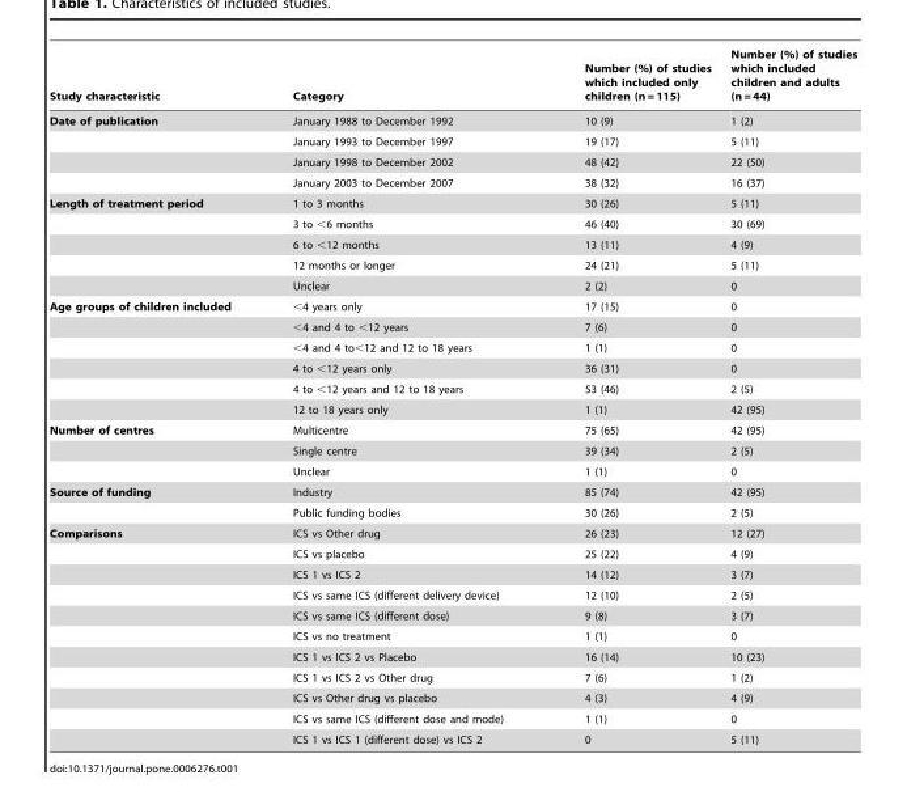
<table><thead><tr><td>Study characteristic</td><td>Category</td><td>Number (%) of studies which included only children (n = 115)</td><td>Number (%) of studies which included children and adults (n = 44)</td></tr></thead><tbody><tr><td rowspan="4">Date of publication</td><td>January 1988 to December 1992</td><td>10 (9)</td><td>1 (2)</td></tr><tr><td>January 1993 to December 1997</td><td>19 (17)</td><td>5 (11)</td></tr><tr><td>January 1998 to December 2002</td><td>48 (42)</td><td>22 (50)</td></tr><tr><td>January 2003 to December 2007</td><td>38 (32)</td><td>16 (37)</td></tr><tr><td rowspan="5">Length of treatment period</td><td>1 to 3 months</td><td>30 (26)</td><td>5 (11)</td></tr><tr><td>3 to &lt;6 months</td><td>46 (40)</td><td>30 (69)</td></tr><tr><td>6 to &lt;12 months</td><td>13 (11)</td><td>4 (9)</td></tr><tr><td>12 months or longer</td><td>24 (21)</td><td>5 (11)</td></tr><tr><td>Unclear</td><td>2 (2)</td><td>0</td></tr><tr><td rowspan="6">Age groups of children included</td><td>&lt;4 years only</td><td>17 (15)</td><td>0</td></tr><tr><td>&lt;4 and 4 to &lt;12 years</td><td>7 (6)</td><td>0</td></tr><tr><td>&lt;4 and 4 to&lt;12 and 12 to 18 years</td><td>1 (1)</td><td>0</td></tr><tr><td>4 to &lt;12 years only</td><td>36 (31)</td><td>0</td></tr><tr><td>4 to &lt;12 years and 12 to 18 years</td><td>53 (46)</td><td>2 (5)</td></tr><tr><td>12 to 18 years only</td><td>1 (1)</td><td>42 (95)</td></tr><tr><td rowspan="3">Number of centres</td><td>Multicentre</td><td>75 (65)</td><td>42 (95)</td></tr><tr><td>Single centre</td><td>39 (34)</td><td>2 (5)</td></tr><tr><td>Unclear</td><td>1 (1)</td><td>0</td></tr><tr><td rowspan="2">Source of funding</td><td>Industry</td><td>85 (74)</td><td>42 (95)</td></tr><tr><td>Public funding bodies</td><td>30 (26)</td><td>2 (5)</td></tr><tr><td rowspan="11">Comparisons</td><td>ICS vs Other drug</td><td>26 (23)</td><td>12 (27)</td></tr><tr><td>ICS vs placebo</td><td>25 (22)</td><td>4 (9)</td></tr><tr><td>ICS 1 vs ICS 2</td><td>14 (12)</td><td>3 (7)</td></tr><tr><td>ICS vs same ICS (different delivery device)</td><td>12 (10)</td><td>2 (5)</td></tr><tr><td>ICS vs same ICS (different dose)</td><td>9 (8)</td><td>3 (7)</td></tr><tr><td>ICS vs no treatment</td><td>1 (1)</td><td>0</td></tr><tr><td>ICS 1 vs ICS 2 vs Placebo</td><td>16 (14)</td><td>10 (23)</td></tr><tr><td>ICS 1 vs ICS 2 vs Other drug</td><td>7 (6)</td><td>1 (2)</td></tr><tr><td>ICS vs Other drug vs placebo</td><td>4 (3)</td><td>4 (9)</td></tr><tr><td>ICS vs same ICS (different dose and mode)</td><td>1 (1)</td><td>0</td></tr><tr><td>ICS 1 vs ICS 1 (different dose) vs ICS 2</td><td>0</td><td>5 (11)</td></tr></tbody></table>